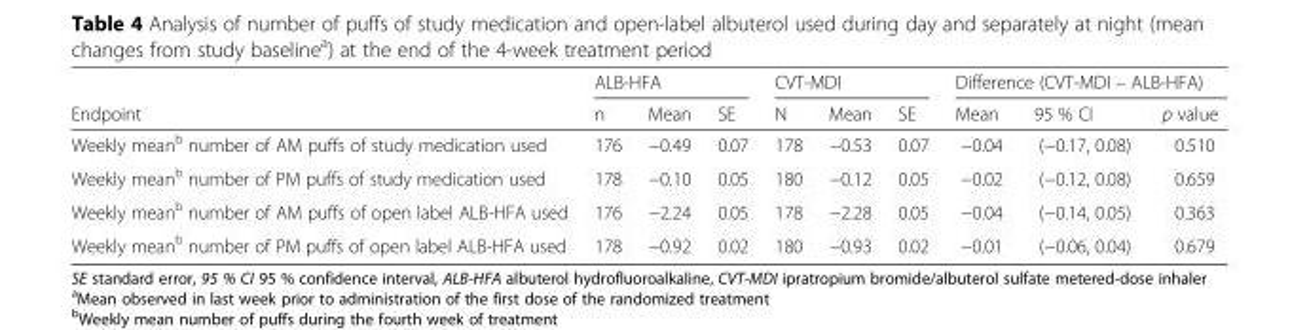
<table><thead><tr><td rowspan="2">Endpoint</td><td colspan="3">ALB-HFA</td><td colspan="3">CVT-MDI</td><td colspan="3">Difference (CVT-MDI – ALB-HFA)</td></tr><tr><td>n</td><td>Mean</td><td>SE</td><td>N</td><td>Mean</td><td>SE</td><td>Mean</td><td>95 % CI</td><td>p value</td></tr></thead><tbody><tr><td>Weekly mean<sup>b</sup> number of AM puffs of study medication used</td><td>176</td><td>−0.49</td><td>0.07</td><td>178</td><td>−0.53</td><td>0.07</td><td>−0.04</td><td>(−0.17, 0.08)</td><td>0.510</td></tr><tr><td>Weekly mean<sup>b</sup> number of PM puffs of study medication used</td><td>178</td><td>−0.10</td><td>0.05</td><td>180</td><td>−0.12</td><td>0.05</td><td>−0.02</td><td>(−0.12, 0.08)</td><td>0.659</td></tr><tr><td>Weekly mean<sup>b</sup> number of AM puffs of open label ALB-HFA used</td><td>176</td><td>−2.24</td><td>0.05</td><td>178</td><td>−2.28</td><td>0.05</td><td>−0.04</td><td>(−0.14, 0.05)</td><td>0.363</td></tr><tr><td>Weekly mean<sup>b</sup> number of PM puffs of open label ALB-HFA used</td><td>178</td><td>−0.92</td><td>0.02</td><td>180</td><td>−0.93</td><td>0.02</td><td>−0.01</td><td>(−0.06, 0.04)</td><td>0.679</td></tr></tbody></table>